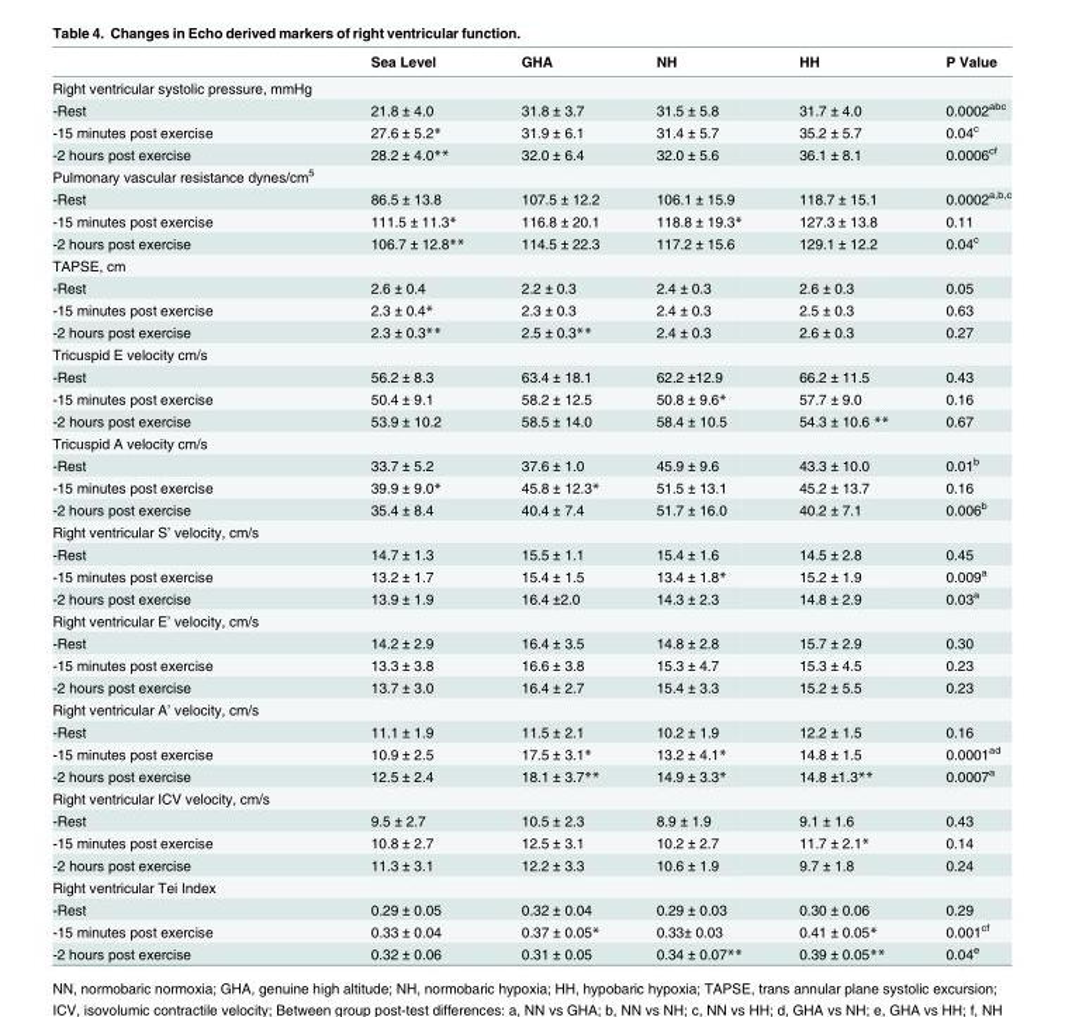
<table><thead><tr><td></td><td>Sea Level</td><td>GHA</td><td>NH</td><td>HH</td><td>P Value</td></tr></thead><tbody><tr><td colspan="6">Right ventricular systolic pressure, mmHg</td></tr><tr><td>-Rest</td><td>21.8 ± 4.0</td><td>31.8 ± 3.7</td><td>31.5 ± 5.8</td><td>31.7 ± 4.0</td><td>0.0002<sup>abc</sup></td></tr><tr><td>-15 minutes post exercise</td><td>27.6 ± 5.2*</td><td>31.9 ± 6.1</td><td>31.4 ± 5.7</td><td>35.2 ± 5.7</td><td>0.04<sup>c</sup></td></tr><tr><td>-2 hours post exercise</td><td>28.2 ± 4.0**</td><td>32.0 ± 6.4</td><td>32.0 ± 5.6</td><td>36.1 ± 8.1</td><td>0.0006<sup>cf</sup></td></tr><tr><td colspan="6">Pulmonary vascular resistance dynes/cm<sup>5</sup></td></tr><tr><td>-Rest</td><td>86.5 ± 13.8</td><td>107.5 ± 12.2</td><td>106.1 ± 15.9</td><td>118.7 ± 15.1</td><td>0.0002<sup>a,b,c</sup></td></tr><tr><td>-15 minutes post exercise</td><td>111.5 ± 11.3*</td><td>116.8 ± 20.1</td><td>118.8 ± 19.3*</td><td>127.3 ± 13.8</td><td>0.11</td></tr><tr><td>-2 hours post exercise</td><td>106.7 ± 12.8**</td><td>114.5 ± 22.3</td><td>117.2 ± 15.6</td><td>129.1 ± 12.2</td><td>0.04<sup>c</sup></td></tr><tr><td colspan="6">TAPSE, cm</td></tr><tr><td>-Rest</td><td>2.6 ± 0.4</td><td>2.2 ± 0.3</td><td>2.4 ± 0.3</td><td>2.6 ± 0.3</td><td>0.05</td></tr><tr><td>-15 minutes post exercise</td><td>2.3 ± 0.4*</td><td>2.3 ± 0.3</td><td>2.4 ± 0.3</td><td>2.5 ± 0.3</td><td>0.63</td></tr><tr><td>-2 hours post exercise</td><td>2.3 ± 0.3**</td><td>2.5 ± 0.3**</td><td>2.4 ± 0.3</td><td>2.6 ± 0.3</td><td>0.27</td></tr><tr><td colspan="6">Tricuspid E velocity cm/s</td></tr><tr><td>-Rest</td><td>56.2 ± 8.3</td><td>63.4 ± 18.1</td><td>62.2 ±12.9</td><td>66.2 ± 11.5</td><td>0.43</td></tr><tr><td>-15 minutes post exercise</td><td>50.4 ± 9.1</td><td>58.2 ± 12.5</td><td>50.8 ± 9.6*</td><td>57.7 ± 9.0</td><td>0.16</td></tr><tr><td>-2 hours post exercise</td><td>53.9 ± 10.2</td><td>58.5 ± 14.0</td><td>58.4 ± 10.5</td><td>54.3 ± 10.6 **</td><td>0.67</td></tr><tr><td colspan="6">Tricuspid A velocity cm/s</td></tr><tr><td>-Rest</td><td>33.7 ± 5.2</td><td>37.6 ± 1.0</td><td>45.9 ± 9.6</td><td>43.3 ± 10.0</td><td>0.01<sup>b</sup></td></tr><tr><td>-15 minutes post exercise</td><td>39.9 ± 9.0*</td><td>45.8 ± 12.3*</td><td>51.5 ± 13.1</td><td>45.2 ± 13.7</td><td>0.16</td></tr><tr><td>-2 hours post exercise</td><td>35.4 ± 8.4</td><td>40.4 ± 7.4</td><td>51.7 ± 16.0</td><td>40.2 ± 7.1</td><td>0.006<sup>b</sup></td></tr><tr><td colspan="6">Right ventricular S’ velocity, cm/s</td></tr><tr><td>-Rest</td><td>14.7 ± 1.3</td><td>15.5 ± 1.1</td><td>15.4 ± 1.6</td><td>14.5 ± 2.8</td><td>0.45</td></tr><tr><td>-15 minutes post exercise</td><td>13.2 ± 1.7</td><td>15.4 ± 1.5</td><td>13.4 ± 1.8*</td><td>15.2 ± 1.9</td><td>0.009<sup>a</sup></td></tr><tr><td>-2 hours post exercise</td><td>13.9 ± 1.9</td><td>16.4 ±2.0</td><td>14.3 ± 2.3</td><td>14.8 ± 2.9</td><td>0.03<sup>a</sup></td></tr><tr><td colspan="6">Right ventricular E’ velocity, cm/s</td></tr><tr><td>-Rest</td><td>14.2 ± 2.9</td><td>16.4 ± 3.5</td><td>14.8 ± 2.8</td><td>15.7 ± 2.9</td><td>0.30</td></tr><tr><td>-15 minutes post exercise</td><td>13.3 ± 3.8</td><td>16.6 ± 3.8</td><td>15.3 ± 4.7</td><td>15.3 ± 4.5</td><td>0.23</td></tr><tr><td>-2 hours post exercise</td><td>13.7 ± 3.0</td><td>16.4 ± 2.7</td><td>15.4 ± 3.3</td><td>15.2 ± 5.5</td><td>0.23</td></tr><tr><td colspan="6">Right ventricular A’ velocity, cm/s</td></tr><tr><td>-Rest</td><td>11.1 ± 1.9</td><td>11.5 ± 2.1</td><td>10.2 ± 1.9</td><td>12.2 ± 1.5</td><td>0.16</td></tr><tr><td>-15 minutes post exercise</td><td>10.9 ± 2.5</td><td>17.5 ± 3.1*</td><td>13.2 ± 4.1*</td><td>14.8 ± 1.5</td><td>0.0001<sup>ad</sup></td></tr><tr><td>-2 hours post exercise</td><td>12.5 ± 2.4</td><td>18.1 ± 3.7**</td><td>14.9 ± 3.3*</td><td>14.8 ±1.3**</td><td>0.0007<sup>a</sup></td></tr><tr><td colspan="6">Right ventricular ICV velocity, cm/s</td></tr><tr><td>-Rest</td><td>9.5 ± 2.7</td><td>10.5 ± 2.3</td><td>8.9 ± 1.9</td><td>9.1 ± 1.6</td><td>0.43</td></tr><tr><td>-15 minutes post exercise</td><td>10.8 ± 2.7</td><td>12.5 ± 3.1</td><td>10.2 ± 2.7</td><td>11.7 ± 2.1*</td><td>0.14</td></tr><tr><td>-2 hours post exercise</td><td>11.3 ± 3.1</td><td>12.2 ± 3.3</td><td>10.6 ± 1.9</td><td>9.7 ± 1.8</td><td>0.24</td></tr><tr><td colspan="6">Right ventricular Tei Index</td></tr><tr><td>-Rest</td><td>0.29 ± 0.05</td><td>0.32 ± 0.04</td><td>0.29 ± 0.03</td><td>0.30 ± 0.06</td><td>0.29</td></tr><tr><td>-15 minutes post exercise</td><td>0.33 ± 0.04</td><td>0.37 ± 0.05*</td><td>0.33± 0.03</td><td>0.41 ± 0.05*</td><td>0.001<sup>cf</sup></td></tr><tr><td>-2 hours post exercise</td><td>0.32 ± 0.06</td><td>0.31 ± 0.05</td><td>0.34 ± 0.07**</td><td>0.39 ± 0.05**</td><td>0.04<sup>e</sup></td></tr></tbody></table>